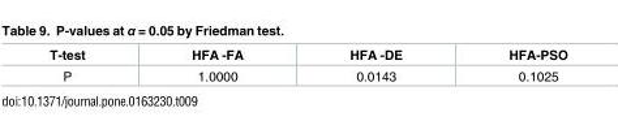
<table><thead><tr><td>T-test</td><td>HFA -FA</td><td>HFA -DE</td><td>HFA-PSO</td></tr></thead><tbody><tr><td>P</td><td>1.0000</td><td>0.0143</td><td>0.1025</td></tr></tbody></table>